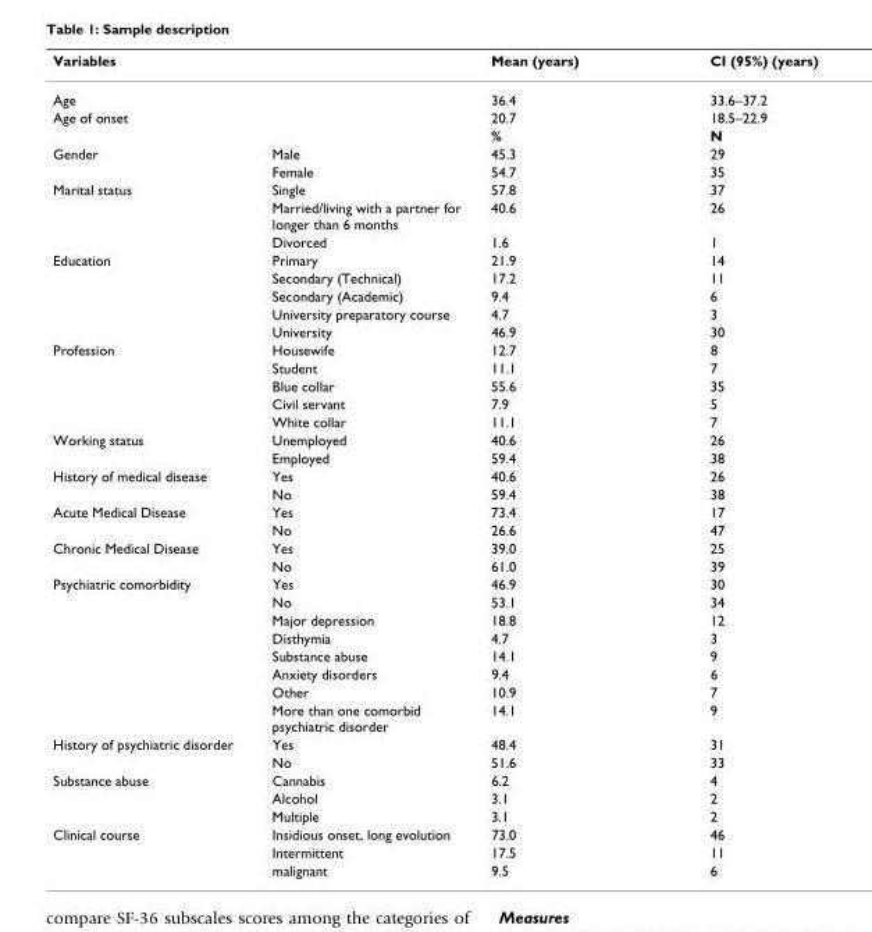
<table><thead><tr><td rowspan="3" colspan="2">Variables Age Age of onset</td><td rowspan="4">Mean (years) 36.4 20.7 %</td><td rowspan="4">CI (95%) (years) 33.6–37.2 18.5–22.9 N</td></tr><tr></tr><tr></tr><tr><td></td><td></td></tr></thead><tbody><tr><td rowspan="2">Gender</td><td>Male</td><td>45.3</td><td>29</td></tr><tr><td>Female</td><td>54.7</td><td>35</td></tr><tr><td rowspan="3">Marital status</td><td>Single</td><td>57.8</td><td>37</td></tr><tr><td>Married/living with a partner for longer than 6 months</td><td>40.6</td><td>26</td></tr><tr><td>Divorced</td><td>1.6</td><td>1</td></tr><tr><td rowspan="5">Education</td><td>Primary</td><td>21.9</td><td>14</td></tr><tr><td>Secondary (Technical)</td><td>17.2</td><td>11</td></tr><tr><td>Secondary (Academic)</td><td>9.4</td><td>6</td></tr><tr><td>University preparatory course</td><td>4.7</td><td>3</td></tr><tr><td>University</td><td>46.9</td><td>30</td></tr><tr><td rowspan="5">Profession</td><td>Housewife</td><td>12.7</td><td>8</td></tr><tr><td>Student</td><td>11.1</td><td>7</td></tr><tr><td>Blue collar</td><td>55.6</td><td>35</td></tr><tr><td>Civil servant</td><td>7.9</td><td>5</td></tr><tr><td>White collar</td><td>11.1</td><td>7</td></tr><tr><td rowspan="2">Working status</td><td>Unemployed</td><td>40.6</td><td>26</td></tr><tr><td>Employed</td><td>59.4</td><td>38</td></tr><tr><td rowspan="2">History of medical disease</td><td>Yes</td><td>40.6</td><td>26</td></tr><tr><td>No</td><td>59.4</td><td>38</td></tr><tr><td rowspan="2">Acute Medical Disease</td><td>Yes</td><td>73.4</td><td>17</td></tr><tr><td>No</td><td>26.6</td><td>47</td></tr><tr><td rowspan="2">Chronic Medical Disease</td><td>Yes</td><td>39.0</td><td>25</td></tr><tr><td>No</td><td>61.0</td><td>39</td></tr><tr><td rowspan="8">Psychiatric comorbidity</td><td>Yes</td><td>46.9</td><td>30</td></tr><tr><td>No</td><td>53.1</td><td>34</td></tr><tr><td>Major depression</td><td>18.8</td><td>12</td></tr><tr><td>Disthymia</td><td>4.7</td><td>3</td></tr><tr><td>Substance abuse</td><td>14.1</td><td>9</td></tr><tr><td>Anxiety disorders</td><td>9.4</td><td>6</td></tr><tr><td>Other</td><td>10.9</td><td>7</td></tr><tr><td>More than one comorbid psychiatric disorder</td><td>14.1</td><td>9</td></tr><tr><td rowspan="2">History of psychiatric disorder</td><td>Yes</td><td>48.4</td><td>31</td></tr><tr><td>No</td><td>51.6</td><td>33</td></tr><tr><td rowspan="3">Substance abuse</td><td>Cannabis</td><td>6.2</td><td>4</td></tr><tr><td>Alcohol</td><td>3.1</td><td>2</td></tr><tr><td>Multiple</td><td>3.1</td><td>2</td></tr><tr><td rowspan="3">Clinical course</td><td>Insidious onset, long evolution</td><td>73.0</td><td>46</td></tr><tr><td>Intermittent</td><td>17.5</td><td>11</td></tr><tr><td>malignant</td><td>9.5</td><td>6</td></tr></tbody></table>